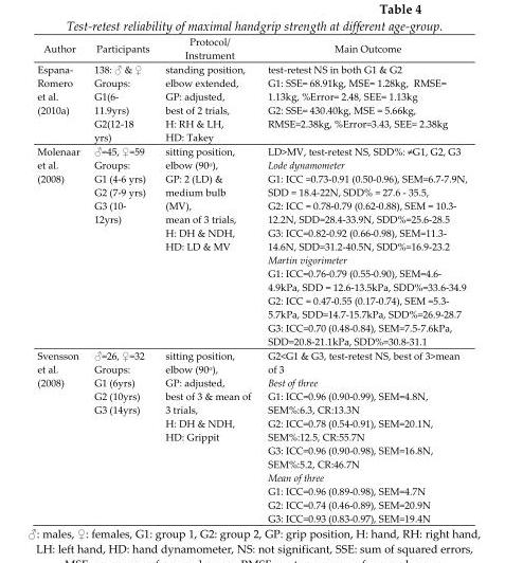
<table><thead><tr><td>Author</td><td>Participants</td><td>Protocol/ Instrument</td><td>Main Outcome</td></tr></thead><tbody><tr><td>Espana- Romero et al. (2010a)</td><td>138: ♂ &amp; ♀ Groups: G1(6- 11.9yrs) G2(12-18 yrs)</td><td>standing position, elbow extended, GP: adjusted, best of 2 trials, H: RH &amp; LH, HD: Takey</td><td>test-retest NS in both G1 &amp; G2 G1: SSE= 68.91kg, MSE= 1.28kg, RMSE= 1.13kg, %Error= 2.48, SEE= 1.13kg G2: SSE= 430.40kg, MSE = 5.66kg, RMSE=2.38kg, %Error=3.43, SEE= 2.38kg</td></tr><tr><td>Molenaar et al. (2008)</td><td>♂=45, ♀=59 Groups: G1 (4-6 yrs) G2 (7-9 yrs) G3 (10- 12yrs)</td><td>sitting position, elbow (90°), GP: 2 (LD) &amp; medium bulb (MV), mean of 3 trials, H: DH &amp; NDH, HD: LD &amp; MV</td><td>LD&gt;MV, test-retest NS, SDD%: ≠G1, G2, G3 Lode dynamometer G1: ICC =0.73-0.91 (0.50-0.96), SEM=6.7-7.9N, SDD = 18.4-22N, SDD% = 27.6 - 35.5, G2: ICC = 0.78-0.79 (0.62-0.88), SEM = 10.3- 12.2N, SDD=28.4-33.9N, SDD%=25.6-28.5 G3: ICC=0.82-0.92 (0.66-0.98), SEM=11.3- 14.6N, SDD=31.2-40.5N, SDD%=16.9-23.2 Martin vigorimeter G1: ICC=0.76-0.79 (0.55-0.90), SEM=4.6- 4.9kPa, SDD = 12.6-13.5kPa, SDD%=33.6-34.9 G2: ICC = 0.47-0.55 (0.17-0.74), SEM =5.3- 5.7kPa, SDD=14.7-15.7kPa, SDD%=26.9-28.7 G3: ICC=0.70 (0.48-0.84), SEM=7.5-7.6kPa, SDD=20.8-21.1kPa, SDD%=30.8-31.1</td></tr><tr><td>Svensson et al. (2008)</td><td>♂=26, ♀=32 Groups: G1 (6yrs) G2 (10yrs) G3 (14yrs)</td><td>sitting position, elbow (90°), GP: adjusted, best of 3 &amp; mean of 3 trials, H: DH &amp; NDH, HD: Grippit</td><td>G2&lt;G1 &amp; G3, test-retest NS, best of 3&gt;mean of 3 Best of three G1: ICC=0.96 (0.90-0.99), SEM=4.8N, SEM%:6.3, CR:13.3N G2: ICC=0.78 (0.54-0.91), SEM=20.1N, SEM%:12.5, CR:55.7N G3: ICC=0.96 (0.90-0.98), SEM=16.8N, SEM%:5.2, CR:46.7N Mean of three G1: ICC=0.96 (0.89-0.98), SEM=4.7N G2: ICC=0.74 (0.46-0.89), SEM=20.9N G3: ICC=0.93 (0.83-0.97), SEM=19.4N</td></tr></tbody></table>